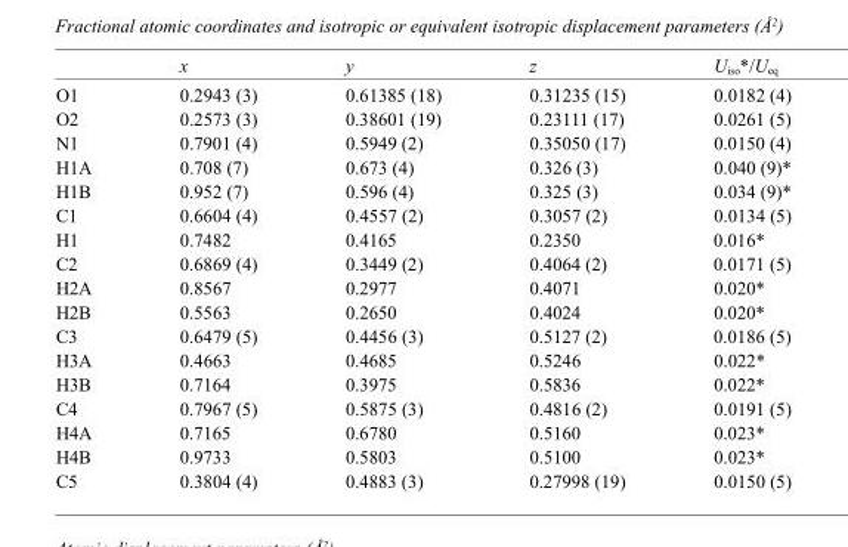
<table><thead><tr><td></td><td>x</td><td>y</td><td>z</td><td>U<sub>iso</sub>*/U<sub>eq</sub></td></tr></thead><tbody><tr><td>O1</td><td>0.2943 (3)</td><td>0.61385 (18)</td><td>0.31235 (15)</td><td>0.0182 (4)</td></tr><tr><td>O2</td><td>0.2573 (3)</td><td>0.38601 (19)</td><td>0.23111 (17)</td><td>0.0261 (5)</td></tr><tr><td>N1</td><td>0.7901 (4)</td><td>0.5949 (2)</td><td>0.35050 (17)</td><td>0.0150 (4)</td></tr><tr><td>H1A</td><td>0.708 (7)</td><td>0.673 (4)</td><td>0.326 (3)</td><td>0.040 (9)*</td></tr><tr><td>H1B</td><td>0.952 (7)</td><td>0.596 (4)</td><td>0.325 (3)</td><td>0.034 (9)*</td></tr><tr><td>C1</td><td>0.6604 (4)</td><td>0.4557 (2)</td><td>0.3057 (2)</td><td>0.0134 (5)</td></tr><tr><td>H1</td><td>0.7482</td><td>0.4165</td><td>0.2350</td><td>0.016*</td></tr><tr><td>C2</td><td>0.6869 (4)</td><td>0.3449 (2)</td><td>0.4064 (2)</td><td>0.0171 (5)</td></tr><tr><td>H2A</td><td>0.8567</td><td>0.2977</td><td>0.4071</td><td>0.020*</td></tr><tr><td>H2B</td><td>0.5563</td><td>0.2650</td><td>0.4024</td><td>0.020*</td></tr><tr><td>C3</td><td>0.6479 (5)</td><td>0.4456 (3)</td><td>0.5127 (2)</td><td>0.0186 (5)</td></tr><tr><td>H3A</td><td>0.4663</td><td>0.4685</td><td>0.5246</td><td>0.022*</td></tr><tr><td>H3B</td><td>0.7164</td><td>0.3975</td><td>0.5836</td><td>0.022*</td></tr><tr><td>C4</td><td>0.7967 (5)</td><td>0.5875 (3)</td><td>0.4816 (2)</td><td>0.0191 (5)</td></tr><tr><td>H4A</td><td>0.7165</td><td>0.6780</td><td>0.5160</td><td>0.023*</td></tr><tr><td>H4B</td><td>0.9733</td><td>0.5803</td><td>0.5100</td><td>0.023*</td></tr><tr><td>C5</td><td>0.3804 (4)</td><td>0.4883 (3)</td><td>0.27998 (19)</td><td>0.0150 (5)</td></tr></tbody></table>